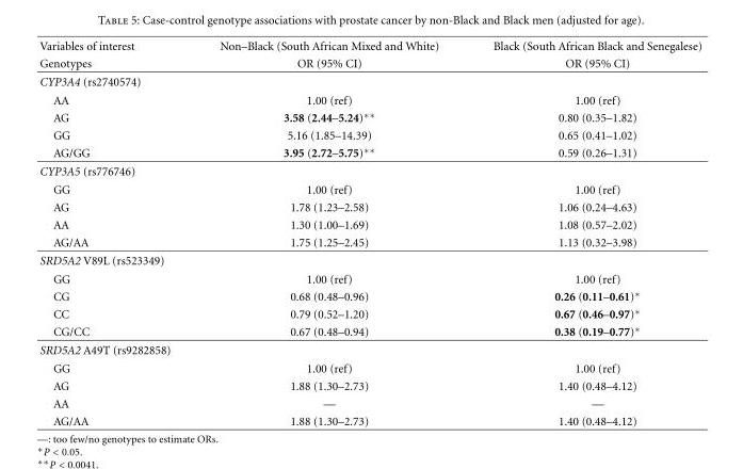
<table><thead><tr><td rowspan="2">Variables of interest Genotypes</td><td rowspan="2">Non–Black (South African Mixed and White) OR (95% CI)</td><td rowspan="2">Black (South African Black and Senegalese) OR (95% CI)</td></tr><tr></tr></thead><tbody><tr><td colspan="3">CYP3A4 (rs2740574)</td></tr><tr><td>AA</td><td>1.00 (ref)</td><td>1.00 (ref)</td></tr><tr><td>AG</td><td>3.58 (2.44–5.24)∗∗</td><td>0.80 (0.35–1.82)</td></tr><tr><td>GG</td><td>5.16 (1.85–14.39)</td><td>0.65 (0.41–1.02)</td></tr><tr><td>AG/GG</td><td>3.95 (2.72–5.75)∗∗</td><td>0.59 (0.26–1.31)</td></tr><tr><td colspan="3">CYP3A5 (rs776746)</td></tr><tr><td>GG</td><td>1.00 (ref)</td><td>1.00 (ref)</td></tr><tr><td>AG</td><td>1.78 (1.23–2.58)</td><td>1.06 (0.24–4.63)</td></tr><tr><td>AA</td><td>1.30 (1.00–1.69)</td><td>1.08 (0.57–2.02)</td></tr><tr><td>AG/AA</td><td>1.75 (1.25–2.45)</td><td>1.13 (0.32–3.98)</td></tr><tr><td colspan="3">SRD5A2 V89L (rs523349)</td></tr><tr><td>GG</td><td>1.00 (ref)</td><td>1.00 (ref)</td></tr><tr><td>CG</td><td>0.68 (0.48–0.96)</td><td>0.26 (0.11–0.61)∗</td></tr><tr><td>CC</td><td>0.79 (0.52–1.20)</td><td>0.67 (0.46–0.97)∗</td></tr><tr><td>CG/CC</td><td>0.67 (0.48–0.94)</td><td>0.38 (0.19–0.77)∗</td></tr><tr><td colspan="3">SRD5A2 A49T (rs9282858)</td></tr><tr><td>GG</td><td>1.00 (ref)</td><td>1.00 (ref)</td></tr><tr><td>AG</td><td>1.88 (1.30–2.73)</td><td>1.40 (0.48–4.12)</td></tr><tr><td>AA</td><td>—</td><td>—</td></tr><tr><td>AG/AA</td><td>1.88 (1.30–2.73)</td><td>1.40 (0.48–4.12)</td></tr></tbody></table>